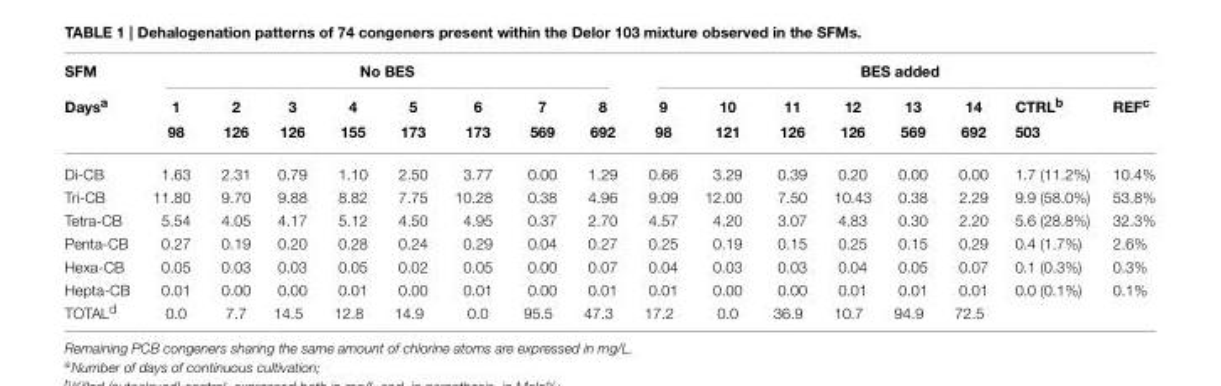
<table><thead><tr><td rowspan="3">SFM Days<sup>a</sup></td><td colspan="8">No BES</td><td colspan="8">BES added</td></tr><tr><td rowspan="2">1 98</td><td rowspan="2">2 126</td><td rowspan="2">3 126</td><td rowspan="2">4 155</td><td rowspan="2">5 173</td><td rowspan="2">6 173</td><td rowspan="2">7 569</td><td rowspan="2">8 692</td><td rowspan="2">9 98</td><td rowspan="2">10 121</td><td rowspan="2">11 126</td><td rowspan="2">12 126</td><td rowspan="2">13 569</td><td rowspan="2">14 692</td><td rowspan="2">CTRL<sup>b</sup> 503</td><td rowspan="2">REF<sup>c</sup></td></tr><tr></tr></thead><tbody><tr><td>Di-CB</td><td>1.63</td><td>2.31</td><td>0.79</td><td>1.10</td><td>2.50</td><td>3.77</td><td>0.00</td><td>1.29</td><td>0.66</td><td>3.29</td><td>0.39</td><td>0.20</td><td>0.00</td><td>0.00</td><td>1.7 (11.2%)</td><td>10.4%</td></tr><tr><td>Tri-CB</td><td>11.80</td><td>9.70</td><td>9.88</td><td>8.82</td><td>7.75</td><td>10.28</td><td>0.38</td><td>4.96</td><td>9.09</td><td>12.00</td><td>7.50</td><td>10.43</td><td>0.38</td><td>2.29</td><td>9.9 (58.0%)</td><td>53.8%</td></tr><tr><td>Tetra-CB</td><td>5.54</td><td>4.05</td><td>4.17</td><td>5.12</td><td>4.50</td><td>4.95</td><td>0.37</td><td>2.70</td><td>4.57</td><td>4.20</td><td>3.07</td><td>4.83</td><td>0.30</td><td>2.20</td><td>5.6 (28.8%)</td><td>32.3%</td></tr><tr><td>Penta-CB</td><td>0.27</td><td>0.19</td><td>0.20</td><td>0.28</td><td>0.24</td><td>0.29</td><td>0.04</td><td>0.27</td><td>0.25</td><td>0.19</td><td>0.15</td><td>0.25</td><td>0.15</td><td>0.29</td><td>0.4 (1.7%)</td><td>2.6%</td></tr><tr><td>Hexa-CB</td><td>0.05</td><td>0.03</td><td>0.03</td><td>0.05</td><td>0.02</td><td>0.05</td><td>0.00</td><td>0.07</td><td>0.04</td><td>0.03</td><td>0.03</td><td>0.04</td><td>0.05</td><td>0.07</td><td>0.1 (0.3%)</td><td>0.3%</td></tr><tr><td>Hepta-CB</td><td>0.01</td><td>0.00</td><td>0.00</td><td>0.01</td><td>0.00</td><td>0.01</td><td>0.00</td><td>0.01</td><td>0.01</td><td>0.00</td><td>0.00</td><td>0.01</td><td>0.01</td><td>0.01</td><td>0.0 (0.1%)</td><td>0.1%</td></tr><tr><td>TOTAL<sup>d</sup></td><td>0.0</td><td>7.7</td><td>14.5</td><td>12.8</td><td>14.9</td><td>0.0</td><td>95.5</td><td>47.3</td><td>17.2</td><td>0.0</td><td>36.9</td><td>10.7</td><td>94.9</td><td>72.5</td><td></td><td></td></tr></tbody></table>